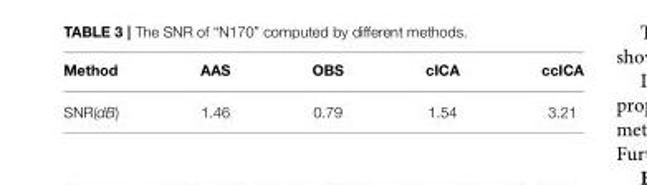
<table><thead><tr><td>Method</td><td>AAS</td><td>OBS</td><td>cICA</td><td>ccICA</td></tr></thead><tbody><tr><td>SNR(dB)</td><td>1.46</td><td>0.79</td><td>1.54</td><td>3.21</td></tr></tbody></table>